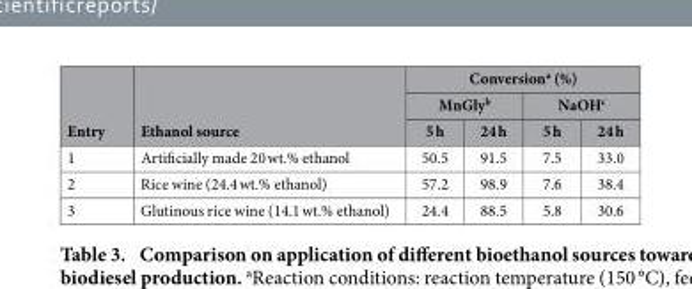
<table><thead><tr><td rowspan="3">Entry</td><td rowspan="3">Ethanol source</td><td colspan="4">Conversion<sup>a</sup> (%)</td></tr><tr><td colspan="2">MnGly<sup>b</sup></td><td colspan="2">NaOH<sup>c</sup></td></tr><tr><td>5 h</td><td>24 h</td><td>5 h</td><td>24 h</td></tr></thead><tbody><tr><td>1</td><td>Artificially made 20 wt.% ethanol</td><td>50.5</td><td>91.5</td><td>7.5</td><td>33.0</td></tr><tr><td>2</td><td>Rice wine (24.4 wt.% ethanol)</td><td>57.2</td><td>98.9</td><td>7.6</td><td>38.4</td></tr><tr><td>3</td><td>Glutinous rice wine (14.1 wt.% ethanol)</td><td>24.4</td><td>88.5</td><td>5.8</td><td>30.6</td></tr></tbody></table>